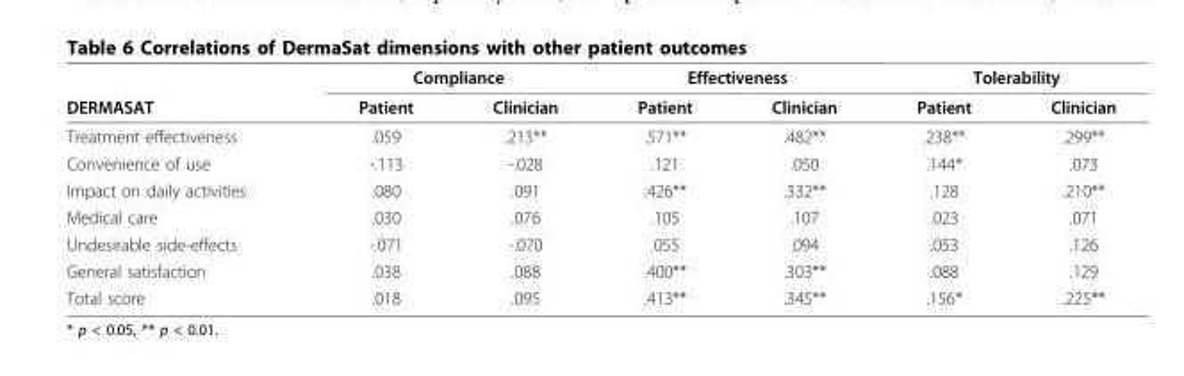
<table><thead><tr><td rowspan="2">DERMASAT</td><td colspan="2">Compliance</td><td colspan="2">Effectiveness</td><td colspan="2">Tolerability</td></tr><tr><td>Patient</td><td>Clinician</td><td>Patient</td><td>Clinician</td><td>Patient</td><td>Clinician</td></tr></thead><tbody><tr><td>Treatment effectiveness</td><td>.059</td><td>.213**</td><td>.571**</td><td>.482**</td><td>.238**</td><td>.299**</td></tr><tr><td>Convenience of use</td><td>-.113</td><td>-.028</td><td>.121</td><td>.050</td><td>.144*</td><td>.073</td></tr><tr><td>Impact on daily activities</td><td>.080</td><td>.091</td><td>.426**</td><td>.332**</td><td>.128</td><td>.210**</td></tr><tr><td>Medical care</td><td>.030</td><td>.076</td><td>.105</td><td>.107</td><td>.023</td><td>.071</td></tr><tr><td>Undesirable side-effects</td><td>-.071</td><td>-.070</td><td>.055</td><td>.094</td><td>.053</td><td>.126</td></tr><tr><td>General satisfaction</td><td>.038</td><td>.088</td><td>.400**</td><td>.303**</td><td>.088</td><td>.129</td></tr><tr><td>Total score</td><td>.018</td><td>.095</td><td>.413**</td><td>.345**</td><td>.156*</td><td>.225**</td></tr></tbody></table>